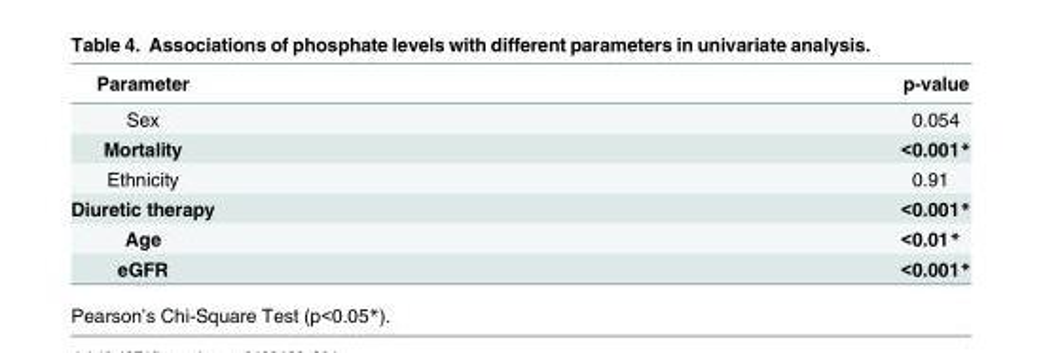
<table><thead><tr><td>Parameter</td><td>p-value</td></tr></thead><tbody><tr><td>Sex</td><td>0.054</td></tr><tr><td>Mortality</td><td>&lt;0.001*</td></tr><tr><td>Ethnicity</td><td>0.91</td></tr><tr><td>Diuretic therapy</td><td>&lt;0.001*</td></tr><tr><td>Age</td><td>&lt;0.01*</td></tr><tr><td>eGFR</td><td>&lt;0.001*</td></tr></tbody></table>